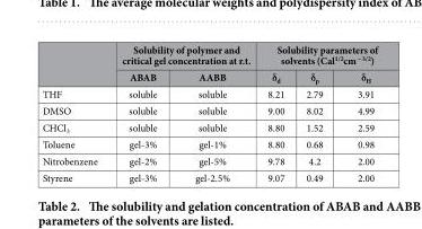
<table><thead><tr><td rowspan="2"></td><td colspan="2">Solubility of polymer and critical gel concentration at r.t.</td><td colspan="3">Solubility parameters of solvents (Cal<sup>1/2</sup>cm<sup>−3/2</sup>)</td></tr><tr><td>ABAB</td><td>AABB</td><td>δ<sub>d</sub></td><td>δ<sub>p</sub></td><td>δ<sub>H</sub></td></tr></thead><tbody><tr><td>THF</td><td>soluble</td><td>soluble</td><td>8.21</td><td>2.79</td><td>3.91</td></tr><tr><td>DMSO</td><td>soluble</td><td>soluble</td><td>9.00</td><td>8.02</td><td>4.99</td></tr><tr><td>CHCl<sub>3</sub></td><td>soluble</td><td>soluble</td><td>8.80</td><td>1.52</td><td>2.59</td></tr><tr><td>Toluene</td><td>gel-3%</td><td>gel-1%</td><td>8.80</td><td>0.68</td><td>0.98</td></tr><tr><td>Nitrobenzene</td><td>gel-2%</td><td>gel-5%</td><td>9.78</td><td>4.2</td><td>2.00</td></tr><tr><td>Styrene</td><td>gel-3%</td><td>gel-2.5%</td><td>9.07</td><td>0.49</td><td>2.00</td></tr></tbody></table>